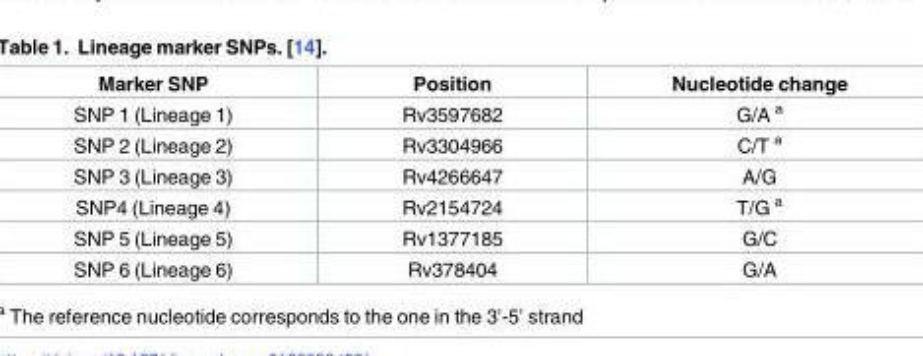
<table><thead><tr><td>Marker SNP</td><td>Position</td><td>Nucleotide change</td></tr></thead><tbody><tr><td>SNP 1 (Lineage 1)</td><td>Rv3597682</td><td>G/A <sup>a</sup></td></tr><tr><td>SNP 2 (Lineage 2)</td><td>Rv3304966</td><td>C/T <sup>a</sup></td></tr><tr><td>SNP 3 (Lineage 3)</td><td>Rv4266647</td><td>A/G</td></tr><tr><td>SNP4 (Lineage 4)</td><td>Rv2154724</td><td>T/G <sup>a</sup></td></tr><tr><td>SNP 5 (Lineage 5)</td><td>Rv1377185</td><td>G/C</td></tr><tr><td>SNP 6 (Lineage 6)</td><td>Rv378404</td><td>G/A</td></tr></tbody></table>